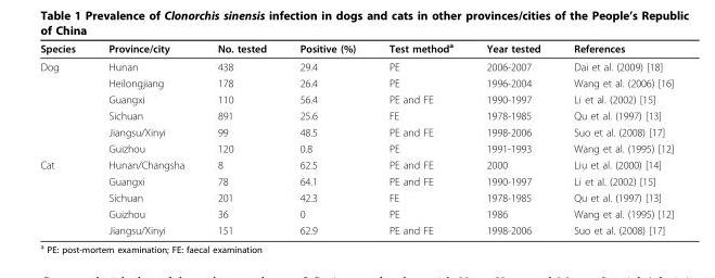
<table><thead><tr><td>Species</td><td>Province/city</td><td>No. tested</td><td>Positive (%)</td><td>Test method<sup>a</sup></td><td>Year tested</td><td>References</td></tr></thead><tbody><tr><td rowspan="6">Dog</td><td>Hunan</td><td>438</td><td>29.4</td><td>PE</td><td>2006-2007</td><td>Dai et al. (2009) [18]</td></tr><tr><td>Heilongjiang</td><td>178</td><td>26.4</td><td>PE</td><td>1996-2004</td><td>Wang et al. (2006) [16]</td></tr><tr><td>Guangxi</td><td>110</td><td>56.4</td><td>PE and FE</td><td>1990-1997</td><td>Li et al. (2002) [15]</td></tr><tr><td>Sichuan</td><td>891</td><td>25.6</td><td>FE</td><td>1978-1985</td><td>Qu et al. (1997) [13]</td></tr><tr><td>Jiangsu/Xinyi</td><td>99</td><td>48.5</td><td>PE and FE</td><td>1998-2006</td><td>Suo et al. (2008) [17]</td></tr><tr><td>Guizhou</td><td>120</td><td>0.8</td><td>PE</td><td>1991-1993</td><td>Wang et al. (1995) [12]</td></tr><tr><td rowspan="5">Cat</td><td>Hunan/Changsha</td><td>8</td><td>62.5</td><td>PE and FE</td><td>2000</td><td>Liu et al. (2000) [14]</td></tr><tr><td>Guangxi</td><td>78</td><td>64.1</td><td>PE and FE</td><td>1990-1997</td><td>Li et al. (2002) [15]</td></tr><tr><td>Sichuan</td><td>201</td><td>42.3</td><td>FE</td><td>1978-1985</td><td>Qu et al. (1997) [13]</td></tr><tr><td>Guizhou</td><td>36</td><td>0</td><td>PE</td><td>1986</td><td>Wang et al. (1995) [12]</td></tr><tr><td>Jiangsu/Xinyi</td><td>151</td><td>62.9</td><td>PE and FE</td><td>1998-2006</td><td>Suo et al. (2008) [17]</td></tr></tbody></table>